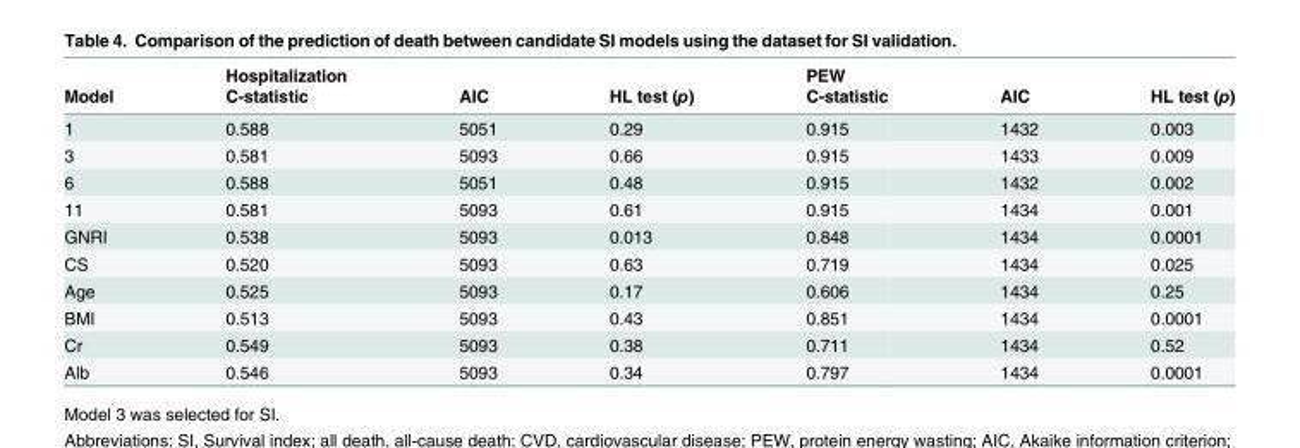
<table><thead><tr><td rowspan="2">Model</td><td rowspan="2">Hospitalization C-statistic</td><td rowspan="2">AIC</td><td rowspan="2">HL test (p)</td><td rowspan="2">PEW C-statistic</td><td rowspan="2">AIC</td><td rowspan="2">HL test (p)</td></tr><tr></tr></thead><tbody><tr><td>1</td><td>0.588</td><td>5051</td><td>0.29</td><td>0.915</td><td>1432</td><td>0.003</td></tr><tr><td>3</td><td>0.581</td><td>5093</td><td>0.66</td><td>0.915</td><td>1433</td><td>0.009</td></tr><tr><td>6</td><td>0.588</td><td>5051</td><td>0.48</td><td>0.915</td><td>1432</td><td>0.002</td></tr><tr><td>11</td><td>0.581</td><td>5093</td><td>0.61</td><td>0.915</td><td>1434</td><td>0.001</td></tr><tr><td>GNRI</td><td>0.538</td><td>5093</td><td>0.013</td><td>0.848</td><td>1434</td><td>0.0001</td></tr><tr><td>CS</td><td>0.520</td><td>5093</td><td>0.63</td><td>0.719</td><td>1434</td><td>0.025</td></tr><tr><td>Age</td><td>0.525</td><td>5093</td><td>0.17</td><td>0.606</td><td>1434</td><td>0.25</td></tr><tr><td>BMI</td><td>0.513</td><td>5093</td><td>0.43</td><td>0.851</td><td>1434</td><td>0.0001</td></tr><tr><td>Cr</td><td>0.549</td><td>5093</td><td>0.38</td><td>0.711</td><td>1434</td><td>0.52</td></tr><tr><td>Alb</td><td>0.546</td><td>5093</td><td>0.34</td><td>0.797</td><td>1434</td><td>0.0001</td></tr></tbody></table>